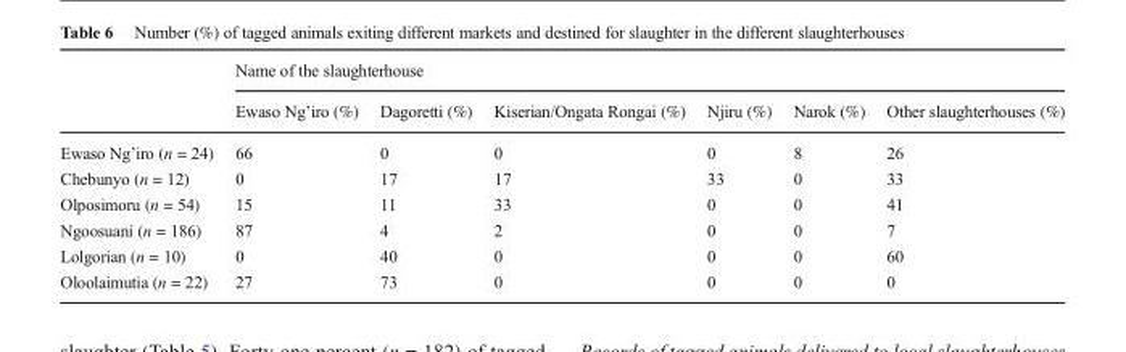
<table><thead><tr><td rowspan="2"></td><td colspan="6">Name of the slaughterhouse</td></tr><tr><td>Ewaso Ng’iro (%)</td><td>Dagoretti (%)</td><td>Kiserian/Ongata Rongai (%)</td><td>Njiru (%)</td><td>Narok (%)</td><td>Other slaughterhouses (%)</td></tr></thead><tbody><tr><td>Ewaso Ng’iro (n = 24)</td><td>66</td><td>0</td><td>0</td><td>0</td><td>8</td><td>26</td></tr><tr><td>Chebunyo (n = 12)</td><td>0</td><td>17</td><td>17</td><td>33</td><td>0</td><td>33</td></tr><tr><td>Olposimoru (n = 54)</td><td>15</td><td>11</td><td>33</td><td>0</td><td>0</td><td>41</td></tr><tr><td>Ngoosuani (n = 186)</td><td>87</td><td>4</td><td>2</td><td>0</td><td>0</td><td>7</td></tr><tr><td>Lolgorian (n = 10)</td><td>0</td><td>40</td><td>0</td><td>0</td><td>0</td><td>60</td></tr><tr><td>Oloolaimutia (n = 22)</td><td>27</td><td>73</td><td>0</td><td>0</td><td>0</td><td>0</td></tr></tbody></table>